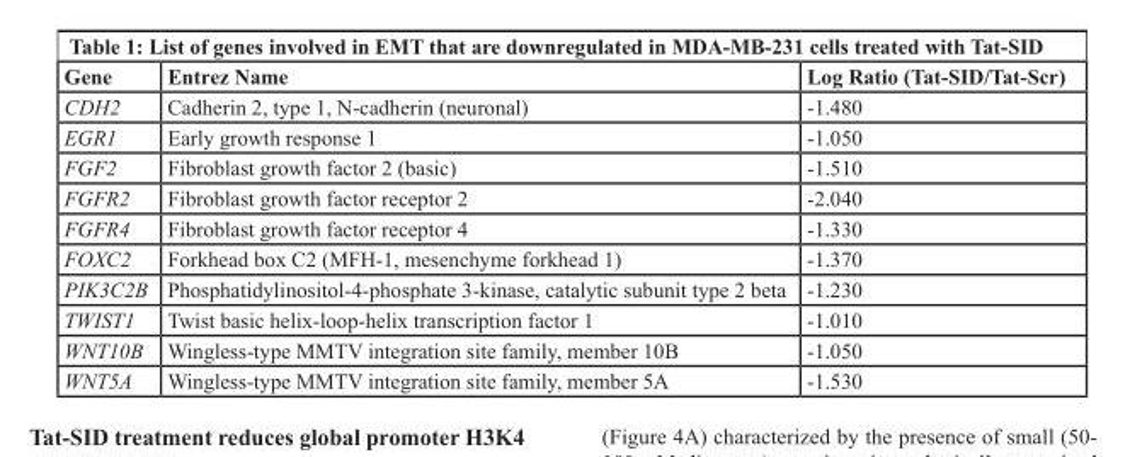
<table><thead><tr><td>Gene</td><td>Entrez Name</td><td>Log Ratio (Tat-SID/Tat-Scr)</td></tr></thead><tbody><tr><td>CDH2</td><td>Cadherin 2, type 1, N-cadherin (neuronal)</td><td>-1.480</td></tr><tr><td>EGR1</td><td>Early growth response 1</td><td>-1.050</td></tr><tr><td>FGF2</td><td>Fibroblast growth factor 2 (basic)</td><td>-1.510</td></tr><tr><td>FGFR2</td><td>Fibroblast growth factor receptor 2</td><td>-2.040</td></tr><tr><td>FGFR4</td><td>Fibroblast growth factor receptor 4</td><td>-1.330</td></tr><tr><td>FOXC2</td><td>Forkhead box C2 (MFH-1, mesenchyme forkhead 1)</td><td>-1.370</td></tr><tr><td>PIK3C2B</td><td>Phosphatidylinositol-4-phosphate 3-kinase, catalytic subunit type 2 beta</td><td>-1.230</td></tr><tr><td>TWIST1</td><td>Twist basic helix-loop-helix transcription factor 1</td><td>-1.010</td></tr><tr><td>WNT10B</td><td>Wingless-type MMTV integration site family, member 10B</td><td>-1.050</td></tr><tr><td>WNT5A</td><td>Wingless-type MMTV integration site family, member 5A</td><td>-1.530</td></tr></tbody></table>